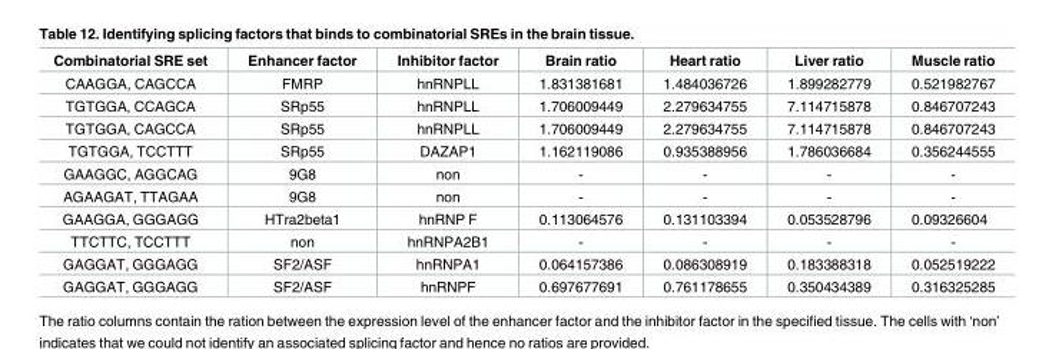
<table><thead><tr><td>Combinatorial SRE set</td><td>Enhancer factor</td><td>Inhibitor factor</td><td>Brain ratio</td><td>Heart ratio</td><td>Liver ratio</td><td>Muscle ratio</td></tr></thead><tbody><tr><td>CAAGGA, CAGCCA</td><td>FMRP</td><td>hnRNPLL</td><td>1.831381681</td><td>1.484036726</td><td>1.899282779</td><td>0.521982767</td></tr><tr><td>TGTGGA, CCAGCA</td><td>SRp55</td><td>hnRNPLL</td><td>1.706009449</td><td>2.279634755</td><td>7.114715878</td><td>0.846707243</td></tr><tr><td>TGTGGA, CAGCCA</td><td>SRp55</td><td>hnRNPLL</td><td>1.706009449</td><td>2.279634755</td><td>7.114715878</td><td>0.846707243</td></tr><tr><td>TGTGGA, TCCTTT</td><td>SRp55</td><td>DAZAP1</td><td>1.162119086</td><td>0.935388956</td><td>1.786036684</td><td>0.356244555</td></tr><tr><td>GAAGGC, AGGCAG</td><td>9G8</td><td>non</td><td>-</td><td>-</td><td>-</td><td>-</td></tr><tr><td>AGAAGAT, TTAGAA</td><td>9G8</td><td>non</td><td>-</td><td>-</td><td>-</td><td>-</td></tr><tr><td>GAAGGA, GGGAGG</td><td>HTra2beta1</td><td>hnRNP F</td><td>0.113064576</td><td>0.131103394</td><td>0.053528796</td><td>0.09326604</td></tr><tr><td>TTCTTC, TCCTTT</td><td>non</td><td>hnRNPA2B1</td><td>-</td><td>-</td><td>-</td><td>-</td></tr><tr><td>GAGGAT, GGGAGG</td><td>SF2/ASF</td><td>hnRNPA1</td><td>0.064157386</td><td>0.086308919</td><td>0.183388318</td><td>0.052519222</td></tr><tr><td>GAGGAT, GGGAGG</td><td>SF2/ASF</td><td>hnRNPF</td><td>0.697677691</td><td>0.761178655</td><td>0.350434389</td><td>0.316325285</td></tr></tbody></table>